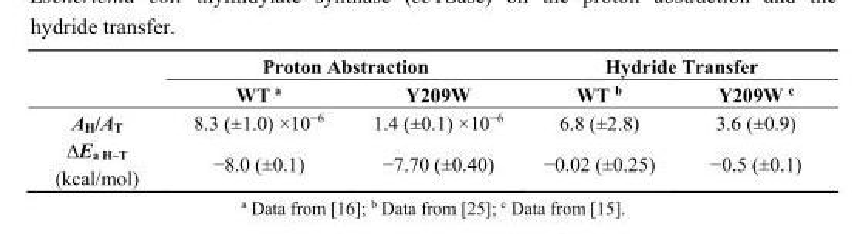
<table><thead><tr><td rowspan="2"></td><td colspan="2">Proton Abstraction</td><td colspan="2">Hydride Transfer</td></tr><tr><td>WT <sup>a</sup></td><td>Y209W</td><td>WT <sup>b</sup></td><td>Y209W <sup>c</sup></td></tr></thead><tbody><tr><td>A<sub>H</sub>/A<sub>T</sub></td><td>8.3 (±1.0) ×10<sup>−6</sup></td><td>1.4 (±0.1) ×10<sup>−6</sup></td><td>6.8 (±2.8)</td><td>3.6 (±0.9)</td></tr><tr><td>∆E<sub>a H–T</sub> (kcal/mol)</td><td>−8.0 (±0.1)</td><td>−7.70 (±0.40)</td><td>−0.02 (±0.25)</td><td>−0.5 (±0.1)</td></tr></tbody></table>